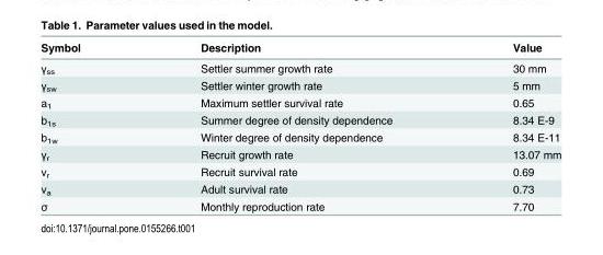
<table><thead><tr><td>Symbol</td><td>Description</td><td>Value</td></tr></thead><tbody><tr><td>γ<sub>ss</sub></td><td>Settler summer growth rate</td><td>30 mm</td></tr><tr><td>γ<sub>sw</sub></td><td>Settler winter growth rate</td><td>5 mm</td></tr><tr><td>a<sub>1</sub></td><td>Maximum settler survival rate</td><td>0.65</td></tr><tr><td>b<sub>1s</sub></td><td>Summer degree of density dependence</td><td>8.34 E-9</td></tr><tr><td>b<sub>1w</sub></td><td>Winter degree of density dependence</td><td>8.34 E-11</td></tr><tr><td>γ<sub>r</sub></td><td>Recruit growth rate</td><td>13.07 mm</td></tr><tr><td>ν<sub>r</sub></td><td>Recruit survival rate</td><td>0.69</td></tr><tr><td>ν<sub>a</sub></td><td>Adult survival rate</td><td>0.73</td></tr><tr><td>σ</td><td>Monthly reproduction rate</td><td>7.70</td></tr></tbody></table>